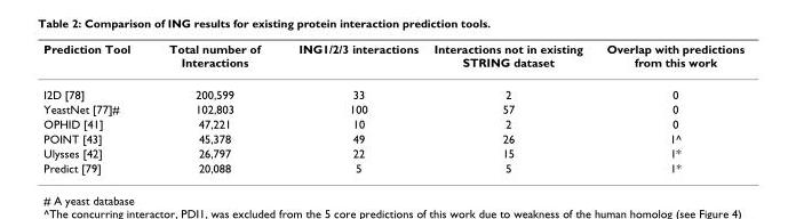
<table><thead><tr><td>Prediction Tool</td><td>Total number of Interactions</td><td>ING1/2/3 interactions</td><td>Interactions not in existing STRING dataset</td><td>Overlap with predictions from this work</td></tr></thead><tbody><tr><td>I2D [78]</td><td>200,599</td><td>33</td><td>2</td><td>0</td></tr><tr><td>YeastNet [77]#</td><td>102,803</td><td>100</td><td>57</td><td>0</td></tr><tr><td>OPHID [41]</td><td>47,221</td><td>10</td><td>2</td><td>0</td></tr><tr><td>POINT [43]</td><td>45,378</td><td>49</td><td>26</td><td>1^</td></tr><tr><td>Ulysses [42]</td><td>26,797</td><td>22</td><td>15</td><td>1*</td></tr><tr><td>Predict [79]</td><td>20,088</td><td>5</td><td>5</td><td>1*</td></tr></tbody></table>